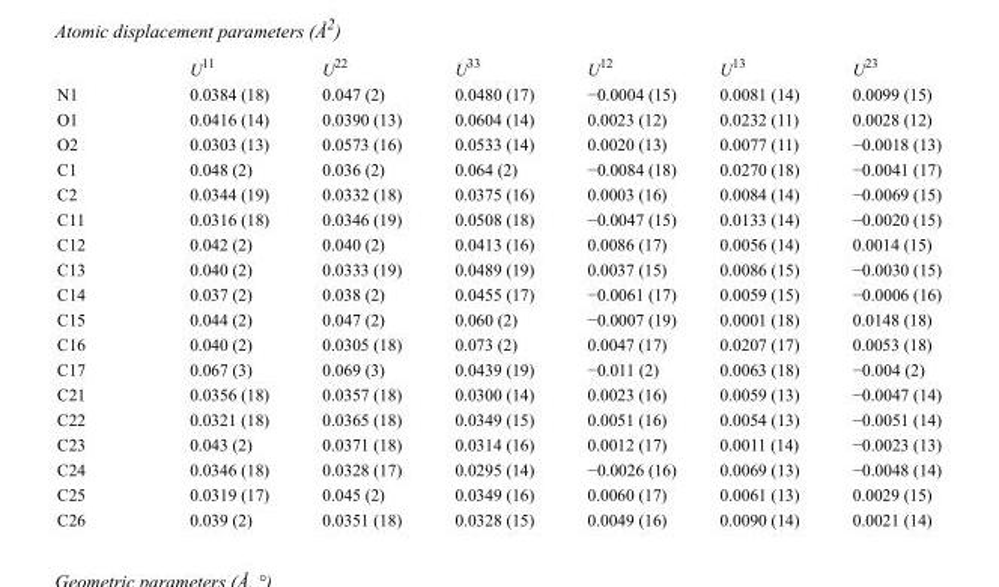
<table><thead><tr><td></td><td>U<sup>11</sup></td><td>U<sup>22</sup></td><td>U<sup>33</sup></td><td>U<sup>12</sup></td><td>U<sup>13</sup></td><td>U<sup>23</sup></td></tr></thead><tbody><tr><td>N1</td><td>0.0384 (18)</td><td>0.047 (2)</td><td>0.0480 (17)</td><td>−0.0004 (15)</td><td>0.0081 (14)</td><td>0.0099 (15)</td></tr><tr><td>O1</td><td>0.0416 (14)</td><td>0.0390 (13)</td><td>0.0604 (14)</td><td>0.0023 (12)</td><td>0.0232 (11)</td><td>0.0028 (12)</td></tr><tr><td>O2</td><td>0.0303 (13)</td><td>0.0573 (16)</td><td>0.0533 (14)</td><td>0.0020 (13)</td><td>0.0077 (11)</td><td>−0.0018 (13)</td></tr><tr><td>C1</td><td>0.048 (2)</td><td>0.036 (2)</td><td>0.064 (2)</td><td>−0.0084 (18)</td><td>0.0270 (18)</td><td>−0.0041 (17)</td></tr><tr><td>C2</td><td>0.0344 (19)</td><td>0.0332 (18)</td><td>0.0375 (16)</td><td>0.0003 (16)</td><td>0.0084 (14)</td><td>−0.0069 (15)</td></tr><tr><td>C11</td><td>0.0316 (18)</td><td>0.0346 (19)</td><td>0.0508 (18)</td><td>−0.0047 (15)</td><td>0.0133 (14)</td><td>−0.0020 (15)</td></tr><tr><td>C12</td><td>0.042 (2)</td><td>0.040 (2)</td><td>0.0413 (16)</td><td>0.0086 (17)</td><td>0.0056 (14)</td><td>0.0014 (15)</td></tr><tr><td>C13</td><td>0.040 (2)</td><td>0.0333 (19)</td><td>0.0489 (19)</td><td>0.0037 (15)</td><td>0.0086 (15)</td><td>−0.0030 (15)</td></tr><tr><td>C14</td><td>0.037 (2)</td><td>0.038 (2)</td><td>0.0455 (17)</td><td>−0.0061 (17)</td><td>0.0059 (15)</td><td>−0.0006 (16)</td></tr><tr><td>C15</td><td>0.044 (2)</td><td>0.047 (2)</td><td>0.060 (2)</td><td>−0.0007 (19)</td><td>0.0001 (18)</td><td>0.0148 (18)</td></tr><tr><td>C16</td><td>0.040 (2)</td><td>0.0305 (18)</td><td>0.073 (2)</td><td>0.0047 (17)</td><td>0.0207 (17)</td><td>0.0053 (18)</td></tr><tr><td>C17</td><td>0.067 (3)</td><td>0.069 (3)</td><td>0.0439 (19)</td><td>−0.011 (2)</td><td>0.0063 (18)</td><td>−0.004 (2)</td></tr><tr><td>C21</td><td>0.0356 (18)</td><td>0.0357 (18)</td><td>0.0300 (14)</td><td>0.0023 (16)</td><td>0.0059 (13)</td><td>−0.0047 (14)</td></tr><tr><td>C22</td><td>0.0321 (18)</td><td>0.0365 (18)</td><td>0.0349 (15)</td><td>0.0051 (16)</td><td>0.0054 (13)</td><td>−0.0051 (14)</td></tr><tr><td>C23</td><td>0.043 (2)</td><td>0.0371 (18)</td><td>0.0314 (16)</td><td>0.0012 (17)</td><td>0.0011 (14)</td><td>−0.0023 (13)</td></tr><tr><td>C24</td><td>0.0346 (18)</td><td>0.0328 (17)</td><td>0.0295 (14)</td><td>−0.0026 (16)</td><td>0.0069 (13)</td><td>−0.0048 (14)</td></tr><tr><td>C25</td><td>0.0319 (17)</td><td>0.045 (2)</td><td>0.0349 (16)</td><td>0.0060 (17)</td><td>0.0061 (13)</td><td>0.0029 (15)</td></tr><tr><td>C26</td><td>0.039 (2)</td><td>0.0351 (18)</td><td>0.0328 (15)</td><td>0.0049 (16)</td><td>0.0090 (14)</td><td>0.0021 (14)</td></tr></tbody></table>